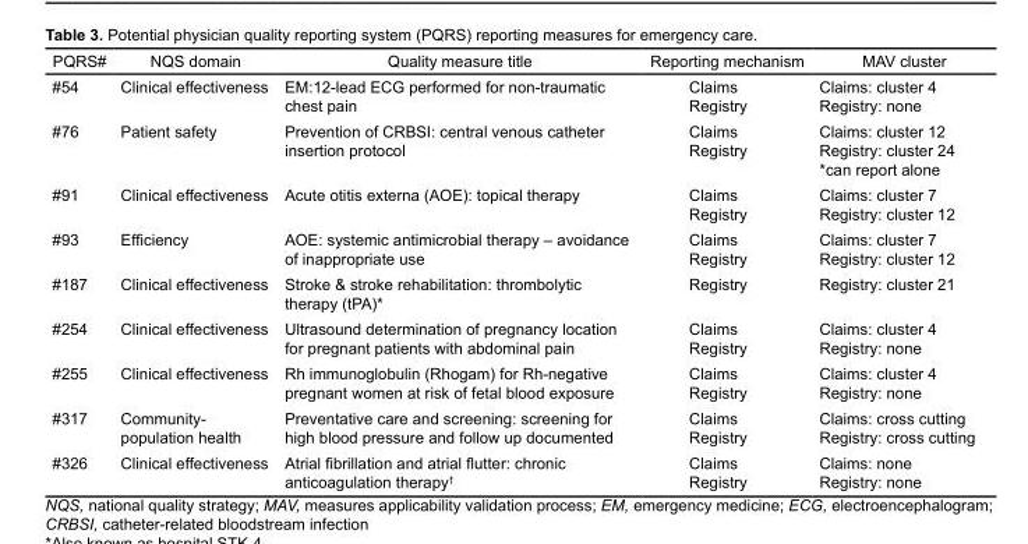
<table><thead><tr><td>PQRS#</td><td>NQS domain</td><td>Quality measure title</td><td>Reporting mechanism</td><td>MAV cluster</td></tr></thead><tbody><tr><td>#54</td><td>Clinical effectiveness</td><td>EM:12-lead ECG performed for non-traumatic chest pain</td><td>Claims Registry</td><td>Claims: cluster 4 Registry: none</td></tr><tr><td>#76</td><td>Patient safety</td><td>Prevention of CRBSI: central venous catheter insertion protocol</td><td>Claims Registry</td><td>Claims: cluster 12 Registry: cluster 24 *can report alone</td></tr><tr><td>#91</td><td>Clinical effectiveness</td><td>Acute otitis externa (AOE): topical therapy</td><td>Claims Registry</td><td>Claims: cluster 7 Registry: cluster 12</td></tr><tr><td>#93</td><td>Efficiency</td><td>AOE: systemic antimicrobial therapy – avoidance of inappropriate use</td><td>Claims Registry</td><td>Claims: cluster 7 Registry: cluster 12</td></tr><tr><td>#187</td><td>Clinical effectiveness</td><td>Stroke &amp; stroke rehabilitation: thrombolytic therapy (tPA)*</td><td>Registry</td><td>Registry: cluster 21</td></tr><tr><td>#254</td><td>Clinical effectiveness</td><td>Ultrasound determination of pregnancy location for pregnant patients with abdominal pain</td><td>Claims Registry</td><td>Claims: cluster 4 Registry: none</td></tr><tr><td>#255</td><td>Clinical effectiveness</td><td>Rh immunoglobulin (Rhogam) for Rh-negative pregnant women at risk of fetal blood exposure</td><td>Claims Registry</td><td>Claims: cluster 4 Registry: none</td></tr><tr><td>#317</td><td>Community- population health</td><td>Preventative care and screening: screening for high blood pressure and follow up documented</td><td>Claims Registry</td><td>Claims: cross cutting Registry: cross cutting</td></tr><tr><td>#326</td><td>Clinical effectiveness</td><td>Atrial fibrillation and atrial flutter: chronic anticoagulation therapy†</td><td>Claims Registry</td><td>Claims: none Registry: none</td></tr></tbody></table>